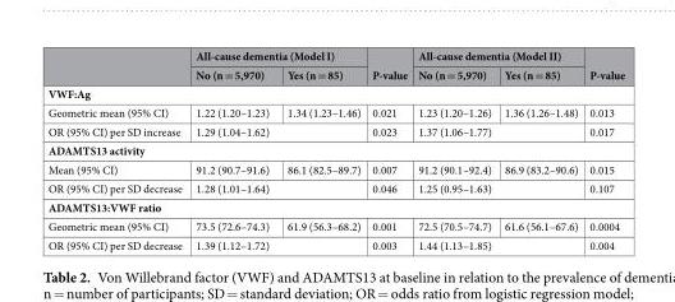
<table><thead><tr><td rowspan="2"></td><td colspan="2">All-cause dementia (Model I)</td><td rowspan="2">P-value</td><td colspan="2">All-cause dementia (Model II)</td><td rowspan="2">P-value</td></tr><tr><td>No (n = 5,970)</td><td>Yes (n = 85)</td><td>No (n = 5,970)</td><td>Yes (n = 85)</td></tr></thead><tbody><tr><td colspan="7">VWF:Ag</td></tr><tr><td>Geometric mean (95% CI)</td><td>1.22 (1.20–1.23)</td><td>1.34 (1.23–1.46)</td><td>0.021</td><td>1.23 (1.20–1.26)</td><td>1.36 (1.26–1.48)</td><td>0.013</td></tr><tr><td>OR (95% CI) per SD increase</td><td colspan="2">1.29 (1.04–1.62)</td><td>0.023</td><td colspan="2">1.37 (1.06–1.77)</td><td>0.017</td></tr><tr><td colspan="7">ADAMTS13 activity</td></tr><tr><td>Mean (95% CI)</td><td>91.2 (90.7–91.6)</td><td>86.1 (82.5–89.7)</td><td>0.007</td><td>91.2 (90.1–92.4)</td><td>86.9 (83.2–90.6)</td><td>0.015</td></tr><tr><td>OR (95% CI) per SD decrease</td><td colspan="2">1.28 (1.01–1.64)</td><td>0.046</td><td colspan="2">1.25 (0.95–1.63)</td><td>0.107</td></tr><tr><td colspan="7">ADAMTS13:VWF ratio</td></tr><tr><td>Geometric mean (95% CI)</td><td>73.5 (72.6–74.3)</td><td>61.9 (56.3–68.2)</td><td>0.001</td><td>72.5 (70.5–74.7)</td><td>61.6 (56.1–67.6)</td><td>0.0004</td></tr><tr><td>OR (95% CI) per SD decrease</td><td colspan="2">1.39 (1.12–1.72)</td><td>0.003</td><td colspan="2">1.44 (1.13–1.85)</td><td>0.004</td></tr></tbody></table>